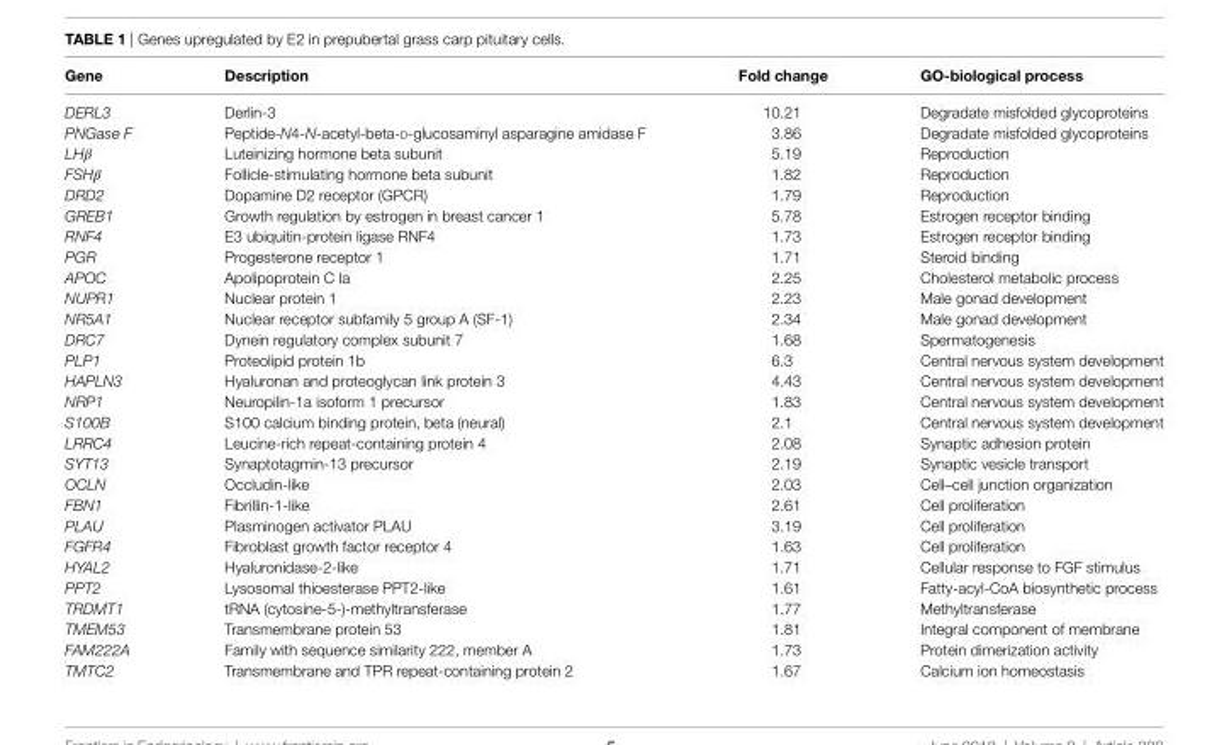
<table><thead><tr><td>gene</td><td>Description</td><td>Fold change</td><td>gO-biological process</td></tr></thead><tbody><tr><td>DERL3</td><td>Derlin-3</td><td>10.21</td><td>Degradate misfolded glycoproteins</td></tr><tr><td>PNGase F</td><td>Peptide-N4-N-acetyl-beta-d-glucosaminyl asparagine amidase F</td><td>3.86</td><td>Degradate misfolded glycoproteins</td></tr><tr><td>LHβ</td><td>Luteinizing hormone beta subunit</td><td>5.19</td><td>Reproduction</td></tr><tr><td>FSHβ</td><td>Follicle-stimulating hormone beta subunit</td><td>1.82</td><td>Reproduction</td></tr><tr><td>DRD2</td><td>Dopamine D2 receptor (GPCR)</td><td>1.79</td><td>Reproduction</td></tr><tr><td>GREB1</td><td>Growth regulation by estrogen in breast cancer 1</td><td>5.78</td><td>Estrogen receptor binding</td></tr><tr><td>RNF4</td><td>E3 ubiquitin-protein ligase RNF4</td><td>1.73</td><td>Estrogen receptor binding</td></tr><tr><td>PGR</td><td>Progesterone receptor 1</td><td>1.71</td><td>Steroid binding</td></tr><tr><td>APOC</td><td>Apolipoprotein C Ia</td><td>2.25</td><td>Cholesterol metabolic process</td></tr><tr><td>NUPR1</td><td>Nuclear protein 1</td><td>2.23</td><td>Male gonad development</td></tr><tr><td>NR5A1</td><td>Nuclear receptor subfamily 5 group A (SF-1)</td><td>2.34</td><td>Male gonad development</td></tr><tr><td>DRC7</td><td>Dynein regulatory complex subunit 7</td><td>1.68</td><td>Spermatogenesis</td></tr><tr><td>PLP1</td><td>Proteolipid protein 1b</td><td>6.3</td><td>Central nervous system development</td></tr><tr><td>HAPLN3</td><td>Hyaluronan and proteoglycan link protein 3</td><td>4.43</td><td>Central nervous system development</td></tr><tr><td>NRP1</td><td>Neuropilin-1a isoform 1 precursor</td><td>1.83</td><td>Central nervous system development</td></tr><tr><td>S100B</td><td>S100 calcium binding protein, beta (neural)</td><td>2.1</td><td>Central nervous system development</td></tr><tr><td>LRRC4</td><td>Leucine-rich repeat-containing protein 4</td><td>2.08</td><td>Synaptic adhesion protein</td></tr><tr><td>SYT13</td><td>Synaptotagmin-13 precursor</td><td>2.19</td><td>Synaptic vesicle transport</td></tr><tr><td>OCLN</td><td>Occludin-like</td><td>2.03</td><td>Cell–cell junction organization</td></tr><tr><td>FBN1</td><td>Fibrillin-1-like</td><td>2.61</td><td>Cell proliferation</td></tr><tr><td>PLAU</td><td>Plasminogen activator PLAU</td><td>3.19</td><td>Cell proliferation</td></tr><tr><td>FGFR4</td><td>Fibroblast growth factor receptor 4</td><td>1.63</td><td>Cell proliferation</td></tr><tr><td>HYAL2</td><td>Hyaluronidase-2-like</td><td>1.71</td><td>Cellular response to FGF stimulus</td></tr><tr><td>PPT2</td><td>Lysosomal thioesterase PPT2-like</td><td>1.61</td><td>Fatty-acyl-CoA biosynthetic process</td></tr><tr><td>TRDMT1</td><td>tRNA (cytosine-5-)-methyltransferase</td><td>1.77</td><td>Methyltransferase</td></tr><tr><td>TMEM53</td><td>Transmembrane protein 53</td><td>1.81</td><td>Integral component of membrane</td></tr><tr><td>FAM222A</td><td>Family with sequence similarity 222, member A</td><td>1.73</td><td>Protein dimerization activity</td></tr><tr><td>TMTC2</td><td>Transmembrane and TPR repeat-containing protein 2</td><td>1.67</td><td>Calcium ion homeostasis</td></tr></tbody></table>